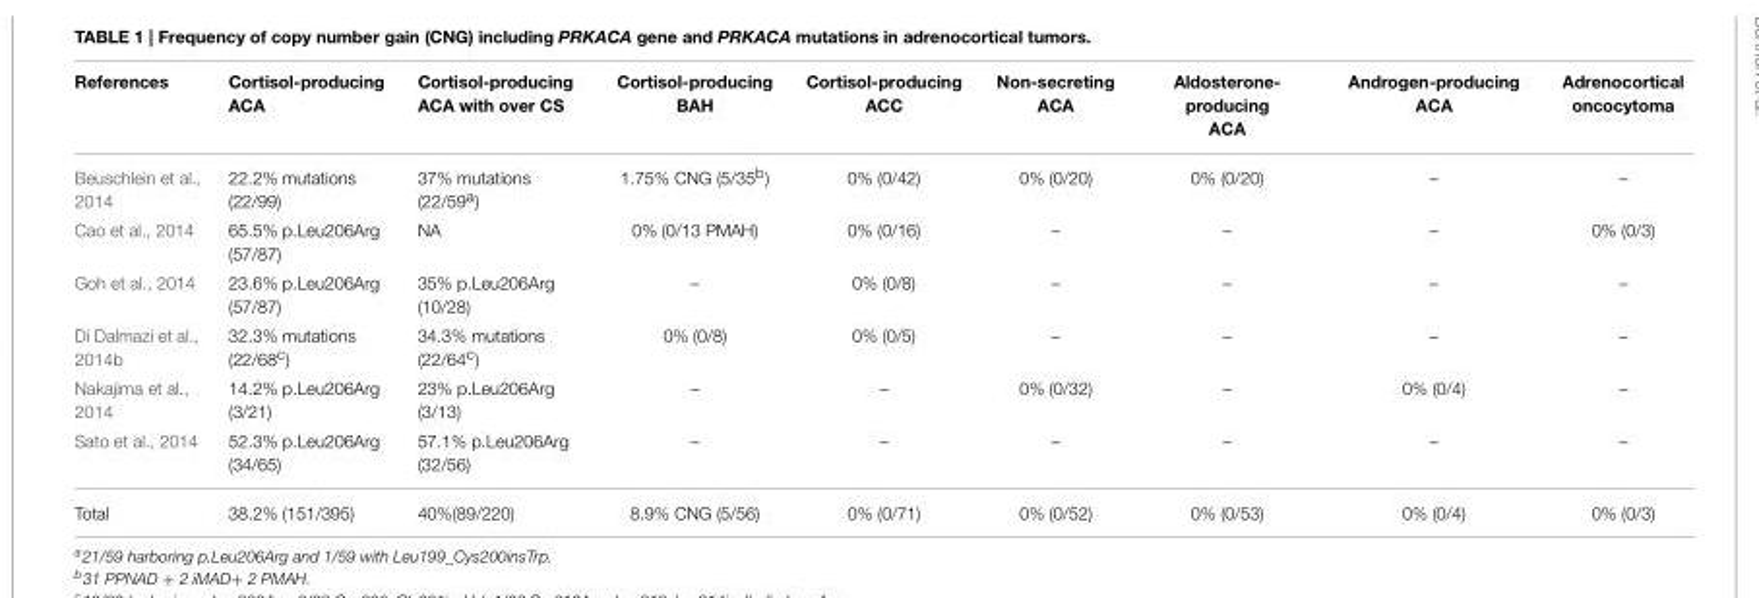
<table><thead><tr><td>References</td><td>Cortisol-producing ACA</td><td>Cortisol-producing ACA with over CS</td><td>Cortisol-producing BAH</td><td>Cortisol-producing ACC</td><td>Non-secreting ACA</td><td>Aldosterone- producing ACA</td><td>Androgen-producing ACA</td><td>Adrenocortical oncocytoma</td></tr></thead><tbody><tr><td>Beuschlein et al., 2014</td><td>22.2% mutations (22/99)</td><td>37% mutations (22/59<sup>a</sup>)</td><td>1.75% CNG (5/35<sup>b</sup>)</td><td>0% (0/42)</td><td>0% (0/20)</td><td>0% (0/20)</td><td>–</td><td>–</td></tr><tr><td>Cao et al., 2014</td><td>65.5% p.Leu206Arg (57/87)</td><td>NA</td><td>0% (0/13 PMAH)</td><td>0% (0/16)</td><td>–</td><td>–</td><td>–</td><td>0% (0/3)</td></tr><tr><td>Goh et al., 2014</td><td>23.6% p.Leu206Arg (57/87)</td><td>35% p.Leu206Arg (10/28)</td><td>–</td><td>0% (0/8)</td><td>–</td><td>–</td><td>–</td><td>–</td></tr><tr><td>Di Dalmazi et al., 2014b</td><td>32.3% mutations (22/68<sup>c</sup>)</td><td>34.3% mutations (22/64<sup>c</sup>)</td><td>0% (0/8)</td><td>0% (0/5)</td><td>–</td><td>–</td><td>–</td><td>–</td></tr><tr><td>Nakajima et al., 2014</td><td>14.2% p.Leu206Arg (3/21)</td><td>23% p.Leu206Arg (3/13)</td><td>–</td><td>–</td><td>0% (0/32)</td><td>–</td><td>0% (0/4)</td><td>–</td></tr><tr><td>Sato et al., 2014</td><td>52.3% p.Leu206Arg (34/65)</td><td>57.1% p.Leu206Arg (32/56)</td><td>–</td><td>–</td><td>–</td><td>–</td><td>–</td><td>–</td></tr><tr><td>Total</td><td>38.2% (151/395)</td><td>40%(89/220)</td><td>8.9% CNG (5/56)</td><td>0% (0/71)</td><td>0% (0/52)</td><td>0% (0/53)</td><td>0% (0/4)</td><td>0% (0/3)</td></tr></tbody></table>